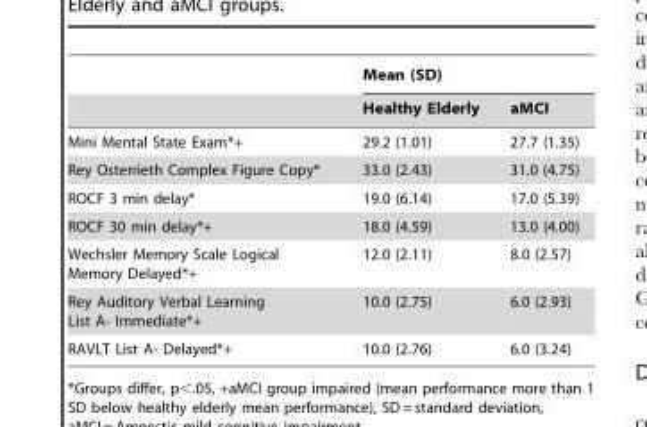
<table><thead><tr><td rowspan="2"></td><td colspan="2">Mean (SD)</td></tr><tr><td>Healthy Elderly</td><td>aMCI</td></tr></thead><tbody><tr><td>Mini Mental State Exam*+</td><td>29.2 (1.01)</td><td>27.7 (1.35)</td></tr><tr><td>Rey Osterrieth Complex Figure Copy*</td><td>33.0 (2.43)</td><td>31.0 (4.75)</td></tr><tr><td>ROCF 3 min delay*</td><td>19.0 (6.14)</td><td>17.0 (5.39)</td></tr><tr><td>ROCF 30 min delay*+</td><td>18.0 (4.59)</td><td>13.0 (4.00)</td></tr><tr><td>Wechsler Memory Scale Logical Memory Delayed*+</td><td>12.0 (2.11)</td><td>8.0 (2.57)</td></tr><tr><td>Rey Auditory Verbal Learning List A- Immediate*+</td><td>10.0 (2.75)</td><td>6.0 (2.93)</td></tr><tr><td>RAVLT List A- Delayed*+</td><td>10.0 (2.76)</td><td>6.0 (3.24)</td></tr></tbody></table>